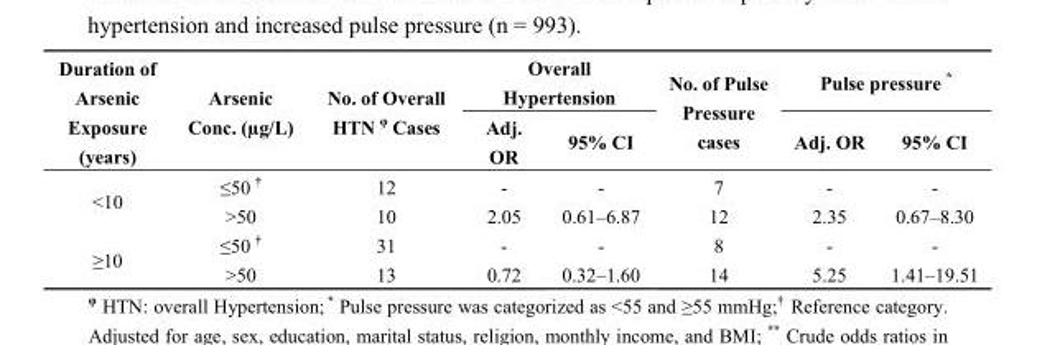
<table><thead><tr><td rowspan="2">Duration of Arsenic Exposure (years)</td><td rowspan="2">Arsenic Conc. (µg/L)</td><td rowspan="2">No. of Overall HTN <sup>φ</sup> Cases</td><td colspan="2">Overall Hypertension</td><td rowspan="2">No. of Pulse Pressure cases</td><td colspan="2">Pulse pressure *</td></tr><tr><td>Adj. OR</td><td>95% CI</td><td>Adj. OR</td><td>95% CI</td></tr></thead><tbody><tr><td rowspan="2">&lt;10</td><td>≤50 <sup>†</sup></td><td>12</td><td>-</td><td>-</td><td>7</td><td>-</td><td>-</td></tr><tr><td>&gt;50</td><td>10</td><td>2.05</td><td>0.61–6.87</td><td>12</td><td>2.35</td><td>0.67–8.30</td></tr><tr><td rowspan="2">≥10</td><td>≤50 <sup>†</sup></td><td>31</td><td>-</td><td>-</td><td>8</td><td>-</td><td>-</td></tr><tr><td>&gt;50</td><td>13</td><td>0.72</td><td>0.32–1.60</td><td>14</td><td>5.25</td><td>1.41–19.51</td></tr></tbody></table>